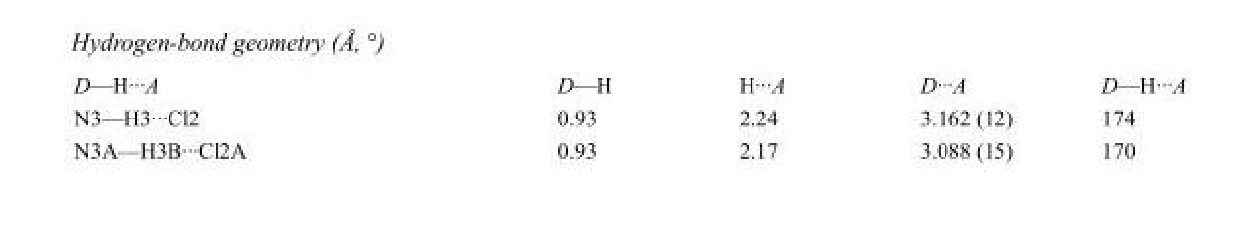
<table><tbody><tr><td>D—H···A</td><td>D—H</td><td>H···A</td><td>D···A</td><td>D—H···A</td></tr><tr><td>N3—H3···Cl2</td><td>0.93</td><td>2.24</td><td>3.162 (12)</td><td>174</td></tr><tr><td>N3A—H3B···Cl2A</td><td>0.93</td><td>2.17</td><td>3.088 (15)</td><td>170</td></tr></tbody></table>